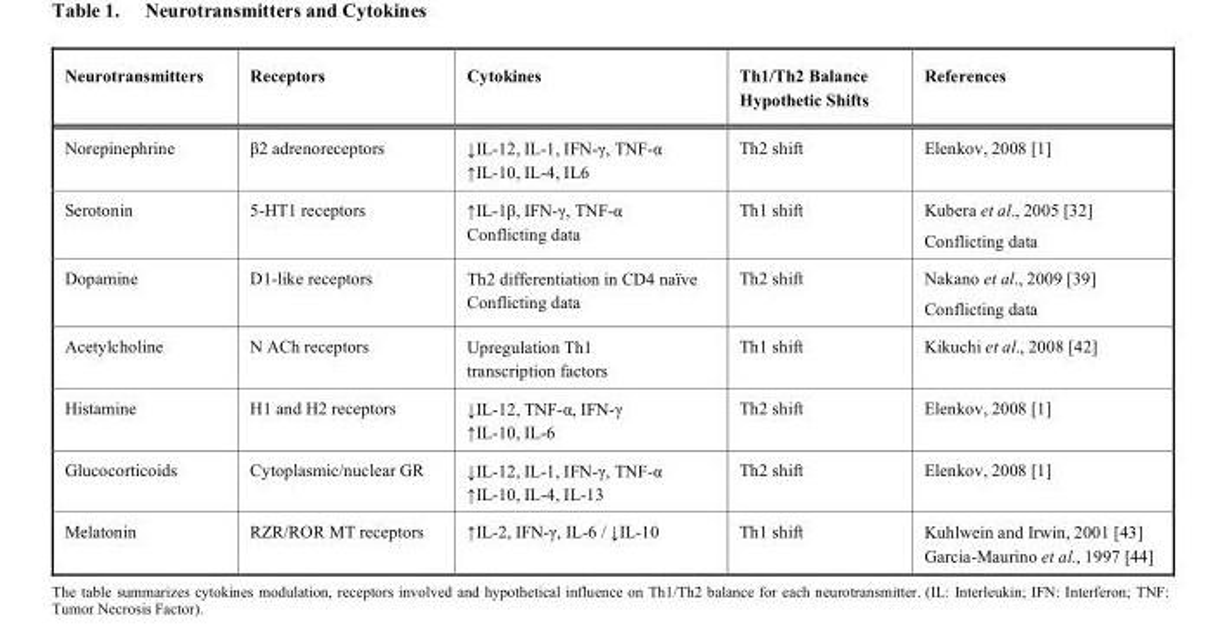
<table><thead><tr><td>Neurotransmitters</td><td>Receptors</td><td>Cytokines</td><td>Th1/Th2 Balance Hypothetic Shifts</td><td>References</td></tr></thead><tbody><tr><td>Norepinephrine</td><td>β2 adrenoreceptors</td><td>↓IL-12, IL-1, IFN-γ, TNF-α ↑IL-10, IL-4, IL6</td><td>Th2 shift</td><td>Elenkov, 2008 [1]</td></tr><tr><td>Serotonin</td><td>5-HT1 receptors</td><td>↑IL-1β, IFN-γ, TNF-α Conflicting data</td><td>Th1 shift</td><td>Kubera et al., 2005 [32] Conflicting data</td></tr><tr><td>Dopamine</td><td>D1-like receptors</td><td>Th2 differentiation in CD4 naïve Conflicting data</td><td>Th2 shift</td><td>Nakano et al., 2009 [39] Conflicting data</td></tr><tr><td>Acetylcholine</td><td>N ACh receptors</td><td>Upregulation Th1 transcription factors</td><td>Th1 shift</td><td>Kikuchi et al., 2008 [42]</td></tr><tr><td>Histamine</td><td>H1 and H2 receptors</td><td>↓IL-12, TNF-α, IFN-γ ↑IL-10, IL-6</td><td>Th2 shift</td><td>Elenkov, 2008 [1]</td></tr><tr><td>Glucocorticoids</td><td>Cytoplasmic/nuclear GR</td><td>↓IL-12, IL-1, IFN-γ, TNF-α ↑IL-10, IL-4, IL-13</td><td>Th2 shift</td><td>Elenkov, 2008 [1]</td></tr><tr><td>Melatonin</td><td>RZR/ROR MT receptors</td><td>↑IL-2, IFN-γ, IL-6 / ↓IL-10</td><td>Th1 shift</td><td>Kuhlwein and Irwin, 2001 [43] Garcia-Maurino et al., 1997 [44]</td></tr></tbody></table>